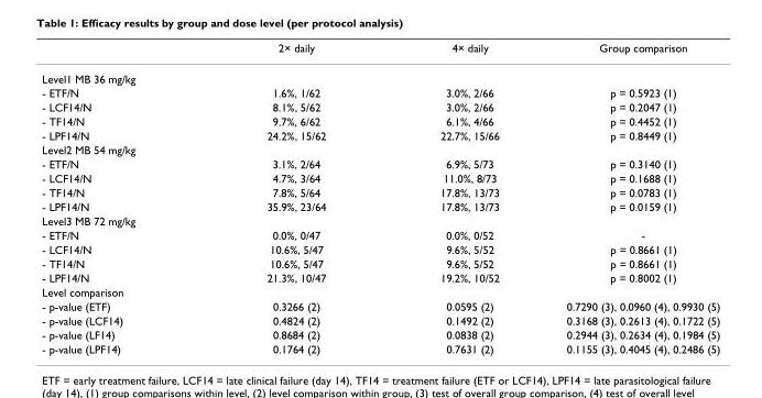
<table><thead><tr><td></td><td>2× daily</td><td>4× daily</td><td>Group comparison</td></tr></thead><tbody><tr><td colspan="4">Level1 MB 36 mg/kg</td></tr><tr><td>- ETF/N</td><td>1.6%, 1/62</td><td>3.0%, 2/66</td><td>p = 0.5923 (1)</td></tr><tr><td>- LCF14/N</td><td>8.1%, 5/62</td><td>3.0%, 2/66</td><td>p = 0.2047 (1)</td></tr><tr><td>- TF14/N</td><td>9.7%, 6/62</td><td>6.1%, 4/66</td><td>p = 0.4452 (1)</td></tr><tr><td>- LPF14/N</td><td>24.2%, 15/62</td><td>22.7%, 15/66</td><td>p = 0.8449 (1)</td></tr><tr><td colspan="4">Level2 MB 54 mg/kg</td></tr><tr><td>- ETF/N</td><td>3.1%, 2/64</td><td>6.9%, 5/73</td><td>p = 0.3140 (1)</td></tr><tr><td>- LCF14/N</td><td>4.7%, 3/64</td><td>11.0%, 8/73</td><td>p = 0.1688 (1)</td></tr><tr><td>- TF14/N</td><td>7.8%, 5/64</td><td>17.8%, 13/73</td><td>p = 0.0783 (1)</td></tr><tr><td>- LPF14/N</td><td>35.9%, 23/64</td><td>17.8%, 13/73</td><td>p = 0.0159 (1)</td></tr><tr><td colspan="4">Level3 MB 72 mg/kg</td></tr><tr><td>- ETF/N</td><td>0.0%, 0/47</td><td>0.0%, 0/52</td><td>-</td></tr><tr><td>- LCF14/N</td><td>10.6%, 5/47</td><td>9.6%, 5/52</td><td>p = 0.8661 (1)</td></tr><tr><td>- TF14/N</td><td>10.6%, 5/47</td><td>9.6%, 5/52</td><td>p = 0.8661 (1)</td></tr><tr><td>- LPF14/N</td><td>21.3%, 10/47</td><td>19.2%, 10/52</td><td>p = 0.8002 (1)</td></tr><tr><td colspan="4">Level comparison</td></tr><tr><td>- p-value (ETF)</td><td>0.3266 (2)</td><td>0.0595 (2)</td><td>0.7290 (3), 0.0960 (4), 0.9930 (5)</td></tr><tr><td>- p-value (LCF14)</td><td>0.4824 (2)</td><td>0.1492 (2)</td><td>0.3168 (3), 0.2613 (4), 0.1722 (5)</td></tr><tr><td>- p-value (LF14)</td><td>0.8684 (2)</td><td>0.0838 (2)</td><td>0.2944 (3), 0.2634 (4), 0.1984 (5)</td></tr><tr><td>- p-value (LPF14)</td><td>0.1764 (2)</td><td>0.7631 (2)</td><td>0.1155 (3), 0.4045 (4), 0.2486 (5)</td></tr></tbody></table>